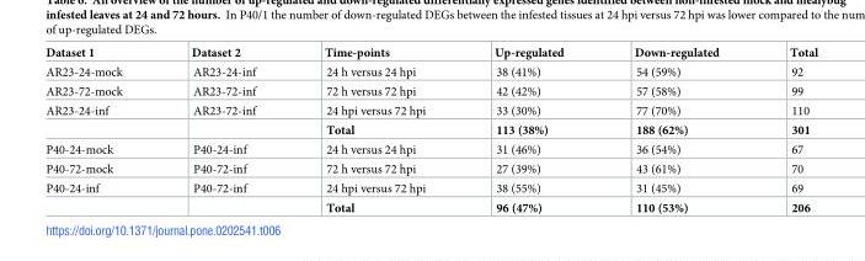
<table><thead><tr><td>Dataset 1</td><td>Dataset 2</td><td>Time-points</td><td>Up-regulated</td><td>Down-regulated</td><td>Total</td></tr></thead><tbody><tr><td>AR23-24-mock</td><td>AR23-24-inf</td><td>24 h versus 24 hpi</td><td>38 (41%)</td><td>54 (59%)</td><td>92</td></tr><tr><td>AR23-72-mock</td><td>AR23-72-inf</td><td>72 h versus 72 hpi</td><td>42 (42%)</td><td>57 (58%)</td><td>99</td></tr><tr><td rowspan="2">AR23-24-inf</td><td>AR23-72-inf</td><td>24 hpi versus 72 hpi</td><td>33 (30%)</td><td>77 (70%)</td><td>110</td></tr><tr><td></td><td>Total</td><td>113 (38%)</td><td>188 (62%)</td><td>301</td></tr><tr><td>P40-24-mock</td><td>P40-24-inf</td><td>24 h versus 24 hpi</td><td>31 (46%)</td><td>36 (54%)</td><td>67</td></tr><tr><td>P40-72-mock</td><td>P40-72-inf</td><td>72 h versus 72 hpi</td><td>27 (39%)</td><td>43 (61%)</td><td>70</td></tr><tr><td rowspan="2">P40-24-inf</td><td>P40-72-inf</td><td>24 hpi versus 72 hpi</td><td>38 (55%)</td><td>31 (45%)</td><td>69</td></tr><tr><td></td><td>Total</td><td>96 (47%)</td><td>110 (53%)</td><td>206</td></tr></tbody></table>